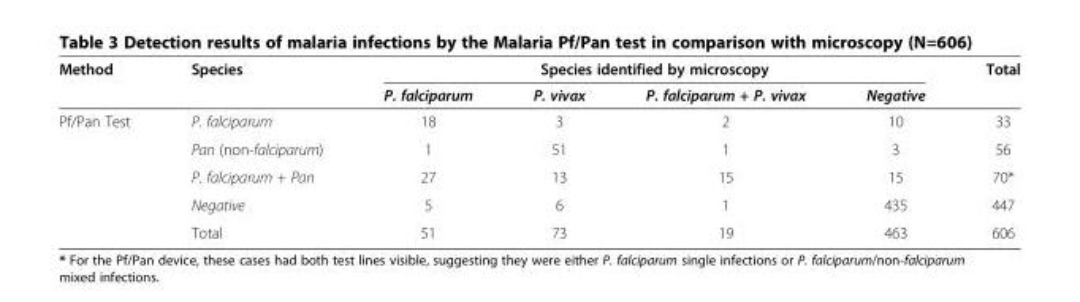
<table><thead><tr><td rowspan="2">Method</td><td rowspan="2">Species</td><td colspan="4">Species identified by microscopy</td><td rowspan="2">Total</td></tr><tr><td>P. falciparum</td><td>P. vivax</td><td>P. falciparum + P. vivax</td><td>Negative</td></tr></thead><tbody><tr><td rowspan="5">Pf/Pan Test</td><td>P. falciparum</td><td>18</td><td>3</td><td>2</td><td>10</td><td>33</td></tr><tr><td>Pan (non-falciparum)</td><td>1</td><td>51</td><td>1</td><td>3</td><td>56</td></tr><tr><td>P. falciparum + Pan</td><td>27</td><td>13</td><td>15</td><td>15</td><td>70*</td></tr><tr><td>Negative</td><td>5</td><td>6</td><td>1</td><td>435</td><td>447</td></tr><tr><td>Total</td><td>51</td><td>73</td><td>19</td><td>463</td><td>606</td></tr></tbody></table>